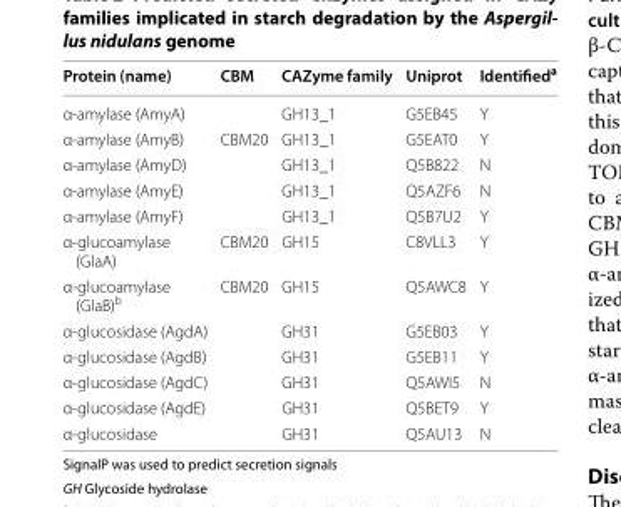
<table><thead><tr><td>Protein (name)</td><td>CBM</td><td>CAZyme family</td><td>Uniprot</td><td>Identified<sup>a</sup></td></tr></thead><tbody><tr><td>α‑amylase (AmyA)</td><td></td><td>GH13_1</td><td>G5EB45</td><td>Y</td></tr><tr><td>α‑amylase (AmyB)</td><td>CBM20</td><td>GH13_1</td><td>G5EAT0</td><td>Y</td></tr><tr><td>α‑amylase (AmyD)</td><td></td><td>GH13_1</td><td>Q5B822</td><td>N</td></tr><tr><td>α‑amylase (AmyE)</td><td></td><td>GH13_1</td><td>Q5AZF6</td><td>N</td></tr><tr><td>α‑amylase (AmyF)</td><td></td><td>GH13_1</td><td>Q5B7U2</td><td>Y</td></tr><tr><td>α‑glucoamylase (GlaA)</td><td>CBM20</td><td>GH15</td><td>C8VLL3</td><td>Y</td></tr><tr><td>α‑glucoamylase (GlaB)<sup>b</sup></td><td>CBM20</td><td>GH15</td><td>Q5AWC8</td><td>Y</td></tr><tr><td>α‑glucosidase (AgdA)</td><td></td><td>GH31</td><td>G5EB03</td><td>Y</td></tr><tr><td>α‑glucosidase (AgdB)</td><td></td><td>GH31</td><td>G5EB11</td><td>Y</td></tr><tr><td>α‑glucosidase (AgdC)</td><td></td><td>GH31</td><td>Q5AWI5</td><td>N</td></tr><tr><td>α‑glucosidase (AgdE)</td><td></td><td>GH31</td><td>Q5BET9</td><td>Y</td></tr><tr><td>α‑glucosidase</td><td></td><td>GH31</td><td>Q5AU13</td><td>N</td></tr></tbody></table>